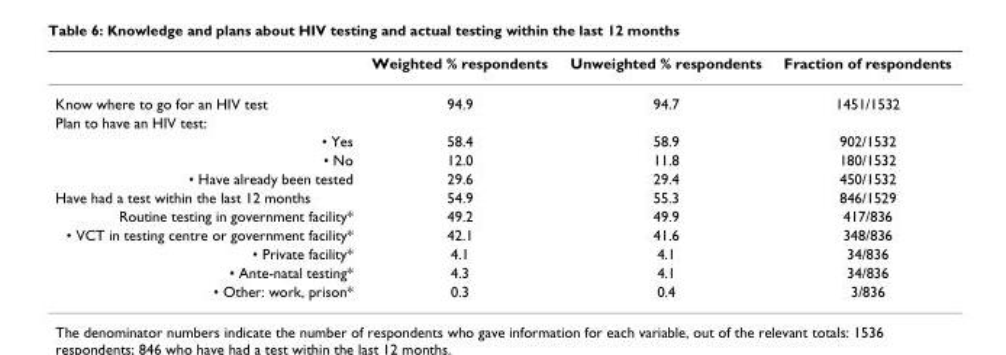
<table><thead><tr><td></td><td>Weighted % respondents</td><td>Unweighted % respondents</td><td>Fraction of respondents</td></tr></thead><tbody><tr><td>Know where to go for an HIV test</td><td>94.9</td><td>94.7</td><td>1451/1532</td></tr><tr><td colspan="4">Plan to have an HIV test:</td></tr><tr><td>• Yes</td><td>58.4</td><td>58.9</td><td>902/1532</td></tr><tr><td>• No</td><td>12.0</td><td>11.8</td><td>180/1532</td></tr><tr><td>• Have already been tested</td><td>29.6</td><td>29.4</td><td>450/1532</td></tr><tr><td>Have had a test within the last 12 months</td><td>54.9</td><td>55.3</td><td>846/1529</td></tr><tr><td>Routine testing in government facility*</td><td>49.2</td><td>49.9</td><td>417/836</td></tr><tr><td>• VCT in testing centre or government facility*</td><td>42.1</td><td>41.6</td><td>348/836</td></tr><tr><td>• Private facility*</td><td>4.1</td><td>4.1</td><td>34/836</td></tr><tr><td>• Ante-natal testing*</td><td>4.3</td><td>4.1</td><td>34/836</td></tr><tr><td>• Other: work, prison*</td><td>0.3</td><td>0.4</td><td>3/836</td></tr></tbody></table>